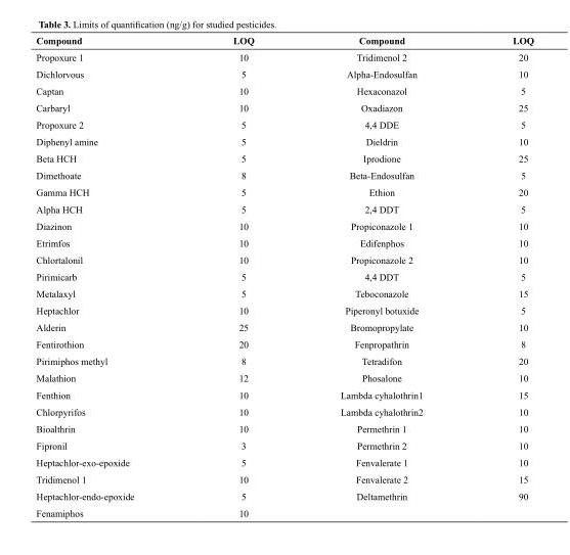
<table><thead><tr><td>Compound</td><td>LOQ</td><td>Compound</td><td>LOQ</td></tr></thead><tbody><tr><td>Propoxure 1</td><td>10</td><td>Tridimenol 2</td><td>20</td></tr><tr><td>Dichlorvous</td><td>5</td><td>Alpha-Endosulfan</td><td>10</td></tr><tr><td>Captan</td><td>10</td><td>Hexaconazol</td><td>5</td></tr><tr><td>Carbaryl</td><td>10</td><td>Oxadiazon</td><td>25</td></tr><tr><td>Propoxure 2</td><td>5</td><td>4,4 DDE</td><td>5</td></tr><tr><td>Diphenyl amine</td><td>5</td><td>Dieldrin</td><td>10</td></tr><tr><td>Beta HCH</td><td>5</td><td>Iprodione</td><td>25</td></tr><tr><td>Dimethoate</td><td>8</td><td>Beta-Endosulfan</td><td>5</td></tr><tr><td>Gamma HCH</td><td>5</td><td>Ethion</td><td>20</td></tr><tr><td>Alpha HCH</td><td>5</td><td>2,4 DDT</td><td>5</td></tr><tr><td>Diazinon</td><td>10</td><td>Propiconazole 1</td><td>10</td></tr><tr><td>Etrimfos</td><td>10</td><td>Edifenphos</td><td>10</td></tr><tr><td>Chlortalonil</td><td>10</td><td>Propiconazole 2</td><td>10</td></tr><tr><td>Pirimicarb</td><td>5</td><td>4,4 DDT</td><td>5</td></tr><tr><td>Metalaxyl</td><td>5</td><td>Teboconazole</td><td>15</td></tr><tr><td>Heptachlor</td><td>10</td><td>Piperonyl botuxide</td><td>5</td></tr><tr><td>Alderin</td><td>25</td><td>Bromopropylate</td><td>10</td></tr><tr><td>Fentirothion</td><td>20</td><td>Fenpropathrin</td><td>8</td></tr><tr><td>Pirimiphos methyl</td><td>8</td><td>Tetradifon</td><td>20</td></tr><tr><td>Malathion</td><td>12</td><td>Phosalone</td><td>10</td></tr><tr><td>Fenthion</td><td>10</td><td>Lambda cyhalothrin1</td><td>15</td></tr><tr><td>Chlorpyrifos</td><td>10</td><td>Lambda cyhalothrin2</td><td>10</td></tr><tr><td>Bioalthrin</td><td>10</td><td>Permethrin 1</td><td>10</td></tr><tr><td>Fipronil</td><td>3</td><td>Permethrin 2</td><td>10</td></tr><tr><td>Heptachlor-exo-epoxide</td><td>5</td><td>Fenvalerate 1</td><td>10</td></tr><tr><td>Tridimenol 1</td><td>10</td><td>Fenvalerate 2</td><td>15</td></tr><tr><td>Heptachlor-endo-epoxide</td><td>5</td><td>Deltamethrin</td><td>90</td></tr><tr><td>Fenamiphos</td><td>10</td><td></td><td></td></tr></tbody></table>